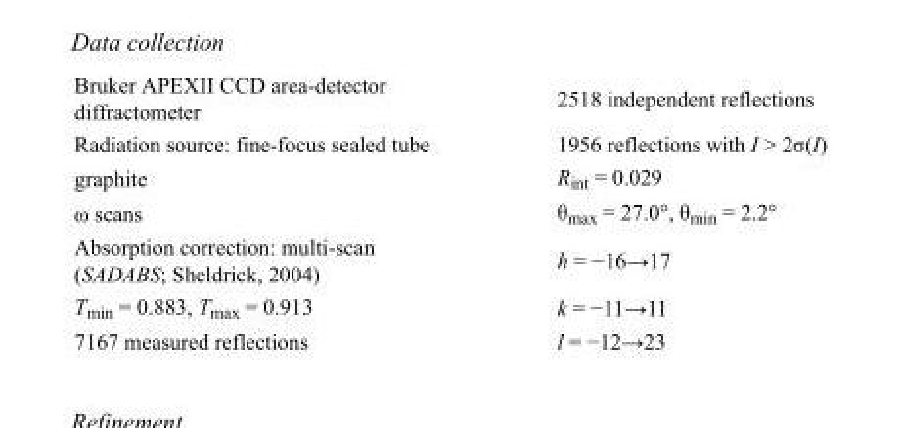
<table><tbody><tr><td>Bruker APEXII CCD area-detector diffractometer</td><td>2518 independent reflections</td></tr><tr><td>Radiation source: fine-focus sealed tube</td><td>1956 reflections with I &gt; 2σ(I)</td></tr><tr><td>graphite</td><td>R<sub>int</sub> = 0.029</td></tr><tr><td>ω scans</td><td>θ<sub>max</sub> = 27.0°, θ<sub>min</sub> = 2.2°</td></tr><tr><td>Absorption correction: multi-scan (SADABS; Sheldrick, 2004)</td><td>h = −16→17</td></tr><tr><td>T<sub>min</sub> = 0.883, T<sub>max</sub> = 0.913</td><td>k = −11→11</td></tr><tr><td>7167 measured reflections</td><td>l = −12→23</td></tr></tbody></table>